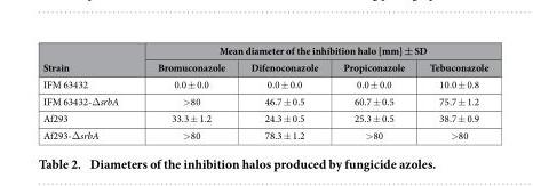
<table><thead><tr><td rowspan="2">Strain</td><td colspan="4">Mean diameter of the inhibition halo [mm] ± SD</td></tr><tr><td>Bromuconazole</td><td>Difenoconazole</td><td>Propiconazole</td><td>Tebuconazole</td></tr></thead><tbody><tr><td>IFM 63432</td><td>0.0 ± 0.0</td><td>0.0 ± 0.0</td><td>0.0 ± 0.0</td><td>10.0 ± 0.8</td></tr><tr><td>IFM 63432-Δ srbA</td><td>&gt; 80</td><td>46.7 ± 0.5</td><td>60.7 ± 0.5</td><td>75.7 ± 1.2</td></tr><tr><td>Af293</td><td>33.3 ± 1.2</td><td>24.3 ± 0.5</td><td>25.3 ± 0.5</td><td>38.7 ± 0.9</td></tr><tr><td>Af293-Δ srbA</td><td>&gt; 80</td><td>78.3 ± 1.2</td><td>&gt; 80</td><td>&gt; 80</td></tr></tbody></table>